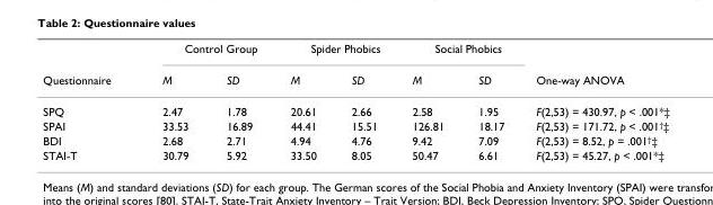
<table><thead><tr><td rowspan="2">Questionnaire</td><td colspan="2">Control Group</td><td colspan="2">Spider Phobics</td><td colspan="2">Social Phobics</td><td rowspan="2">One-way ANOVA</td></tr><tr><td>M</td><td>SD</td><td>M</td><td>SD</td><td>M</td><td>SD</td></tr></thead><tbody><tr><td>SPQ</td><td>2.47</td><td>1.78</td><td>20.61</td><td>2.66</td><td>2.58</td><td>1.95</td><td>F(2,53) = 430.97, p &lt; .001*‡</td></tr><tr><td>SPAI</td><td>33.53</td><td>16.89</td><td>44.41</td><td>15.51</td><td>126.81</td><td>18.17</td><td>F(2,53) = 171.72, p &lt; .001<sup>†</sup>‡</td></tr><tr><td>BDI</td><td>2.68</td><td>2.71</td><td>4.94</td><td>4.76</td><td>9.42</td><td>7.09</td><td>F(2,53) = 8.52, p = .001<sup>†</sup>‡</td></tr><tr><td>STAI-T</td><td>30.79</td><td>5.92</td><td>33.50</td><td>8.05</td><td>50.47</td><td>6.61</td><td>F(2,53) = 45.27, p &lt; .001*‡</td></tr></tbody></table>